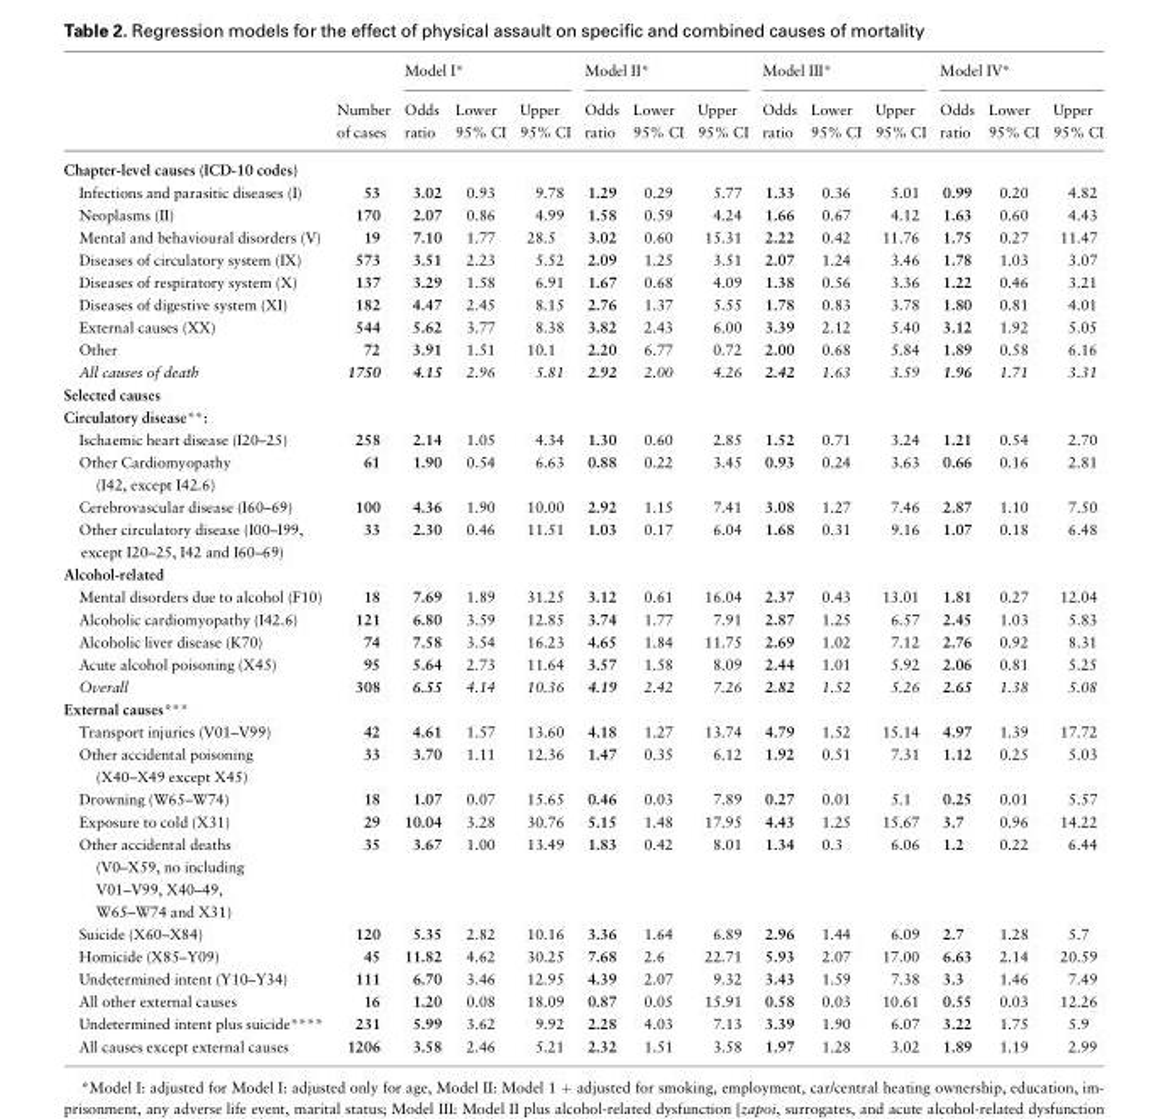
<table><thead><tr><td rowspan="2"></td><td rowspan="2">Number of cases</td><td colspan="3">Model I*</td><td colspan="3">Model II*</td><td colspan="3">Model III*</td><td colspan="3">Model IV*</td></tr><tr><td>Odds ratio</td><td>Lower 95% CI</td><td>Upper 95% CI</td><td>Odds ratio</td><td>Lower 95% CI</td><td>Upper 95% CI</td><td>Odds ratio</td><td>Lower 95% CI</td><td>Upper 95% CI</td><td>Odds ratio</td><td>Lower 95% CI</td><td>Upper 95% CI</td></tr></thead><tbody><tr><td colspan="14">Chapter-level causes (ICD-10 codes)</td></tr><tr><td>Infections and parasitic diseases (I)</td><td>53</td><td>3.02</td><td>0.93</td><td>9.78</td><td>1.29</td><td>0.29</td><td>5.77</td><td>1.33</td><td>0.36</td><td>5.01</td><td>0.99</td><td>0.20</td><td>4.82</td></tr><tr><td>Neoplasms (II)</td><td>170</td><td>2.07</td><td>0.86</td><td>4.99</td><td>1.58</td><td>0.59</td><td>4.24</td><td>1.66</td><td>0.67</td><td>4.12</td><td>1.63</td><td>0.60</td><td>4.43</td></tr><tr><td>Mental and behavioural disorders (V)</td><td>19</td><td>7.10</td><td>1.77</td><td>28.5</td><td>3.02</td><td>0.60</td><td>15.31</td><td>2.22</td><td>0.42</td><td>11.76</td><td>1.75</td><td>0.27</td><td>11.47</td></tr><tr><td>Diseases of circulatory system (IX)</td><td>573</td><td>3.51</td><td>2.23</td><td>5.52</td><td>2.09</td><td>1.25</td><td>3.51</td><td>2.07</td><td>1.24</td><td>3.46</td><td>1.78</td><td>1.03</td><td>3.07</td></tr><tr><td>Diseases of respiratory system (X)</td><td>137</td><td>3.29</td><td>1.58</td><td>6.91</td><td>1.67</td><td>0.68</td><td>4.09</td><td>1.38</td><td>0.56</td><td>3.36</td><td>1.22</td><td>0.46</td><td>3.21</td></tr><tr><td>Diseases of digestive system (XI)</td><td>182</td><td>4.47</td><td>2.45</td><td>8.15</td><td>2.76</td><td>1.37</td><td>5.55</td><td>1.78</td><td>0.83</td><td>3.78</td><td>1.80</td><td>0.81</td><td>4.01</td></tr><tr><td>External causes (XX)</td><td>544</td><td>5.62</td><td>3.77</td><td>8.38</td><td>3.82</td><td>2.43</td><td>6.00</td><td>3.39</td><td>2.12</td><td>5.40</td><td>3.12</td><td>1.92</td><td>5.05</td></tr><tr><td>Other</td><td>72</td><td>3.91</td><td>1.51</td><td>10.1</td><td>2.20</td><td>6.77</td><td>0.72</td><td>2.00</td><td>0.68</td><td>5.84</td><td>1.89</td><td>0.58</td><td>6.16</td></tr><tr><td>All causes of death</td><td>1750</td><td>4.15</td><td>2.96</td><td>5.81</td><td>2.92</td><td>2.00</td><td>4.26</td><td>2.42</td><td>1.63</td><td>3.59</td><td>1.96</td><td>1.71</td><td>3.31</td></tr><tr><td colspan="14">Selected causes</td></tr><tr><td colspan="14">Circulatory disease**:</td></tr><tr><td>Ischaemic heart disease (I20–25)</td><td>258</td><td>2.14</td><td>1.05</td><td>4.34</td><td>1.30</td><td>0.60</td><td>2.85</td><td>1.52</td><td>0.71</td><td>3.24</td><td>1.21</td><td>0.54</td><td>2.70</td></tr><tr><td>Other Cardiomyopathy (I42, except I42.6)</td><td>61</td><td>1.90</td><td>0.54</td><td>6.63</td><td>0.88</td><td>0.22</td><td>3.45</td><td>0.93</td><td>0.24</td><td>3.63</td><td>0.66</td><td>0.16</td><td>2.81</td></tr><tr><td>Cerebrovascular disease (I60–69)</td><td>100</td><td>4.36</td><td>1.90</td><td>10.00</td><td>2.92</td><td>1.15</td><td>7.41</td><td>3.08</td><td>1.27</td><td>7.46</td><td>2.87</td><td>1.10</td><td>7.50</td></tr><tr><td>Other circulatory disease (I00–I99, except I20–25, I42 and I60–69)</td><td>33</td><td>2.30</td><td>0.46</td><td>11.51</td><td>1.03</td><td>0.17</td><td>6.04</td><td>1.68</td><td>0.31</td><td>9.16</td><td>1.07</td><td>0.18</td><td>6.48</td></tr><tr><td colspan="14">Alcohol-related</td></tr><tr><td>Mental disorders due to alcohol (F10)</td><td>18</td><td>7.69</td><td>1.89</td><td>31.25</td><td>3.12</td><td>0.61</td><td>16.04</td><td>2.37</td><td>0.43</td><td>13.01</td><td>1.81</td><td>0.27</td><td>12.04</td></tr><tr><td>Alcoholic cardiomyopathy (I42.6)</td><td>121</td><td>6.80</td><td>3.59</td><td>12.85</td><td>3.74</td><td>1.77</td><td>7.91</td><td>2.87</td><td>1.25</td><td>6.57</td><td>2.45</td><td>1.03</td><td>5.83</td></tr><tr><td>Alcoholic liver disease (K70)</td><td>74</td><td>7.58</td><td>3.54</td><td>16.23</td><td>4.65</td><td>1.84</td><td>11.75</td><td>2.69</td><td>1.02</td><td>7.12</td><td>2.76</td><td>0.92</td><td>8.31</td></tr><tr><td>Acute alcohol poisoning (X45)</td><td>95</td><td>5.64</td><td>2.73</td><td>11.64</td><td>3.57</td><td>1.58</td><td>8.09</td><td>2.44</td><td>1.01</td><td>5.92</td><td>2.06</td><td>0.81</td><td>5.25</td></tr><tr><td>Overall</td><td>308</td><td>6.55</td><td>4.14</td><td>10.36</td><td>4.19</td><td>2.42</td><td>7.26</td><td>2.82</td><td>1.52</td><td>5.26</td><td>2.65</td><td>1.38</td><td>5.08</td></tr><tr><td colspan="14">External causes***</td></tr><tr><td>Transport injuries (V01–V99)</td><td>42</td><td>4.61</td><td>1.57</td><td>13.60</td><td>4.18</td><td>1.27</td><td>13.74</td><td>4.79</td><td>1.52</td><td>15.14</td><td>4.97</td><td>1.39</td><td>17.72</td></tr><tr><td>Other accidental poisoning (X40–X49 except X45)</td><td>33</td><td>3.70</td><td>1.11</td><td>12.36</td><td>1.47</td><td>0.35</td><td>6.12</td><td>1.92</td><td>0.51</td><td>7.31</td><td>1.12</td><td>0.25</td><td>5.03</td></tr><tr><td>Drowning (W65–W74)</td><td>18</td><td>1.07</td><td>0.07</td><td>15.65</td><td>0.46</td><td>0.03</td><td>7.89</td><td>0.27</td><td>0.01</td><td>5.1</td><td>0.25</td><td>0.01</td><td>5.57</td></tr><tr><td>Exposure to cold (X31)</td><td>29</td><td>10.04</td><td>3.28</td><td>30.76</td><td>5.15</td><td>1.48</td><td>17.95</td><td>4.43</td><td>1.25</td><td>15.67</td><td>3.7</td><td>0.96</td><td>14.22</td></tr><tr><td>Other accidental deaths (V0–X59, no including V01–V99, X40–49, W65–W74 and X31)</td><td>35</td><td>3.67</td><td>1.00</td><td>13.49</td><td>1.83</td><td>0.42</td><td>8.01</td><td>1.34</td><td>0.3</td><td>6.06</td><td>1.2</td><td>0.22</td><td>6.44</td></tr><tr><td>Suicide (X60–X84)</td><td>120</td><td>5.35</td><td>2.82</td><td>10.16</td><td>3.36</td><td>1.64</td><td>6.89</td><td>2.96</td><td>1.44</td><td>6.09</td><td>2.7</td><td>1.28</td><td>5.7</td></tr><tr><td>Homicide (X85–Y09)</td><td>45</td><td>11.82</td><td>4.62</td><td>30.25</td><td>7.68</td><td>2.6</td><td>22.71</td><td>5.93</td><td>2.07</td><td>17.00</td><td>6.63</td><td>2.14</td><td>20.59</td></tr><tr><td>Undetermined intent (Y10–Y34)</td><td>111</td><td>6.70</td><td>3.46</td><td>12.95</td><td>4.39</td><td>2.07</td><td>9.32</td><td>3.43</td><td>1.59</td><td>7.38</td><td>3.3</td><td>1.46</td><td>7.49</td></tr><tr><td>All other external causes</td><td>16</td><td>1.20</td><td>0.08</td><td>18.09</td><td>0.87</td><td>0.05</td><td>15.91</td><td>0.58</td><td>0.03</td><td>10.61</td><td>0.55</td><td>0.03</td><td>12.26</td></tr><tr><td>Undetermined intent plus suicide****</td><td>231</td><td>5.99</td><td>3.62</td><td>9.92</td><td>2.28</td><td>4.03</td><td>7.13</td><td>3.39</td><td>1.90</td><td>6.07</td><td>3.22</td><td>1.75</td><td>5.9</td></tr><tr><td>All causes except external causes</td><td>1206</td><td>3.58</td><td>2.46</td><td>5.21</td><td>2.32</td><td>1.51</td><td>3.58</td><td>1.97</td><td>1.28</td><td>3.02</td><td>1.89</td><td>1.19</td><td>2.99</td></tr></tbody></table>